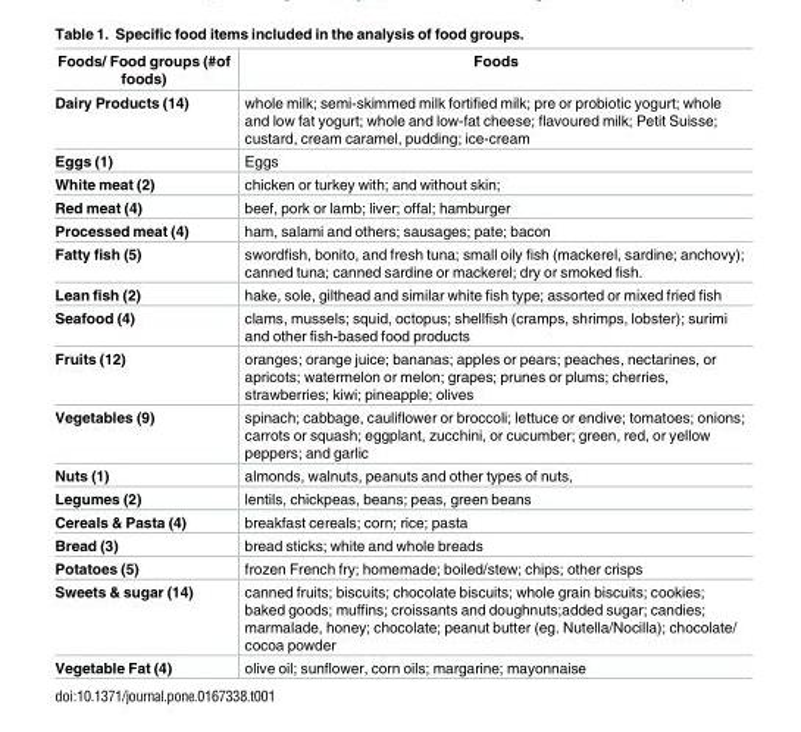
<table><thead><tr><td>Foods/ Food groups (#of foods)</td><td>Foods</td></tr></thead><tbody><tr><td>Dairy Products (14)</td><td>whole milk; semi-skimmed milk fortified milk; pre or probiotic yogurt; whole and low fat yogurt; whole and low-fat cheese; flavoured milk; Petit Suisse; custard, cream caramel, pudding; ice-cream</td></tr><tr><td>Eggs (1)</td><td>Eggs</td></tr><tr><td>White meat (2)</td><td>chicken or turkey with; and without skin;</td></tr><tr><td>Red meat (4)</td><td>beef, pork or lamb; liver; offal; hamburger</td></tr><tr><td>Processed meat (4)</td><td>ham, salami and others; sausages; pate; bacon</td></tr><tr><td>Fatty fish (5)</td><td>swordfish, bonito, and fresh tuna; small oily fish (mackerel, sardine; anchovy); canned tuna; canned sardine or mackerel; dry or smoked fish.</td></tr><tr><td>Lean fish (2)</td><td>hake, sole, gilthead and similar white fish type; assorted or mixed fried fish</td></tr><tr><td>Seafood (4)</td><td>clams, mussels; squid, octopus; shellfish (cramps, shrimps, lobster); surimi and other fish-based food products</td></tr><tr><td>Fruits (12)</td><td>oranges; orange juice; bananas; apples or pears; peaches, nectarines, or apricots; watermelon or melon; grapes; prunes or plums; cherries, strawberries; kiwi; pineapple; olives</td></tr><tr><td>Vegetables (9)</td><td>spinach; cabbage, cauliflower or broccoli; lettuce or endive; tomatoes; onions; carrots or squash; eggplant, zucchini, or cucumber; green, red, or yellow peppers; and garlic</td></tr><tr><td>Nuts (1)</td><td>almonds, walnuts, peanuts and other types of nuts,</td></tr><tr><td>Legumes (2)</td><td>lentils, chickpeas, beans; peas, green beans</td></tr><tr><td>Cereals &amp; Pasta (4)</td><td>breakfast cereals; corn; rice; pasta</td></tr><tr><td>Bread (3)</td><td>bread sticks; white and whole breads</td></tr><tr><td>Potatoes (5)</td><td>frozen French fry; homemade; boiled/stew; chips; other crisps</td></tr><tr><td>Sweets &amp; sugar (14)</td><td>canned fruits; biscuits; chocolate biscuits; whole grain biscuits; cookies; baked goods; muffins; croissants and doughnuts;added sugar; candies; marmalade, honey; chocolate; peanut butter (eg. Nutella/Nocilla); chocolate/ cocoa powder</td></tr><tr><td>Vegetable Fat (4)</td><td>olive oil; sunflower, corn oils; margarine; mayonnaise</td></tr></tbody></table>